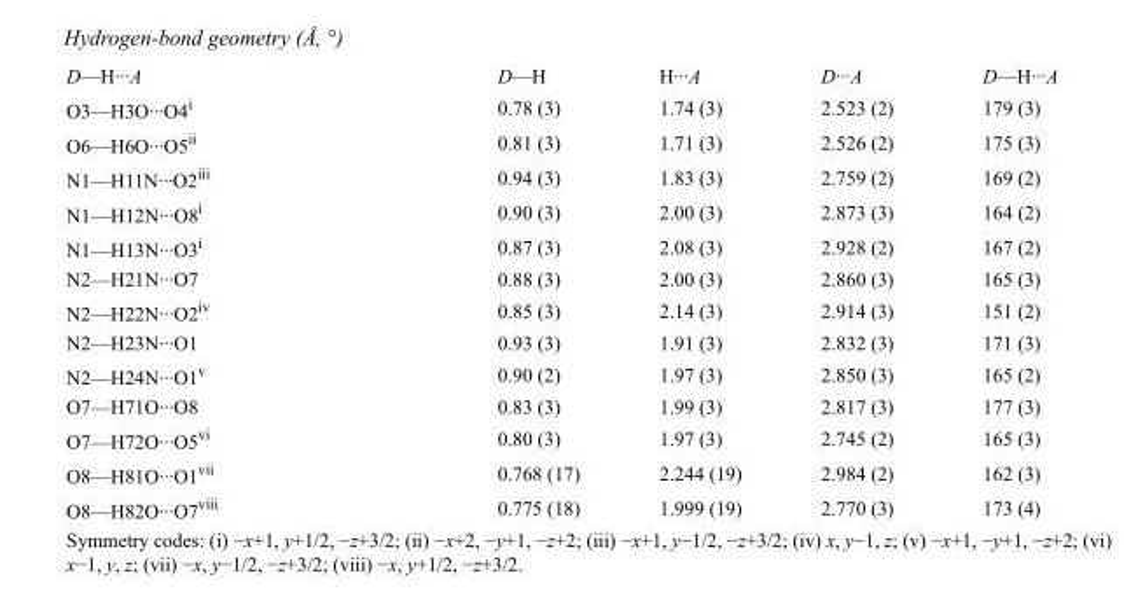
<table><tbody><tr><td>D—H···A</td><td>D—H</td><td>H···A</td><td>D···A</td><td>D—H···A</td></tr><tr><td>O3—H3O···O4<sup>i</sup></td><td>0.78 (3)</td><td>1.74 (3)</td><td>2.523 (2)</td><td>179 (3)</td></tr><tr><td>O6—H6O···O5<sup>ii</sup></td><td>0.81 (3)</td><td>1.71 (3)</td><td>2.526 (2)</td><td>175 (3)</td></tr><tr><td>N1—H11N···O2<sup>iii</sup></td><td>0.94 (3)</td><td>1.83 (3)</td><td>2.759 (2)</td><td>169 (2)</td></tr><tr><td>N1—H12N···O8<sup>i</sup></td><td>0.90 (3)</td><td>2.00 (3)</td><td>2.873 (3)</td><td>164 (2)</td></tr><tr><td>N1—H13N···O3<sup>i</sup></td><td>0.87 (3)</td><td>2.08 (3)</td><td>2.928 (2)</td><td>167 (2)</td></tr><tr><td>N2—H21N···O7</td><td>0.88 (3)</td><td>2.00 (3)</td><td>2.860 (3)</td><td>165 (3)</td></tr><tr><td>N2—H22N···O2<sup>iv</sup></td><td>0.85 (3)</td><td>2.14 (3)</td><td>2.914 (3)</td><td>151 (2)</td></tr><tr><td>N2—H23N···O1</td><td>0.93 (3)</td><td>1.91 (3)</td><td>2.832 (3)</td><td>171 (3)</td></tr><tr><td>N2—H24N···O1<sup>v</sup></td><td>0.90 (2)</td><td>1.97 (3)</td><td>2.850 (3)</td><td>165 (2)</td></tr><tr><td>O7—H71O···O8</td><td>0.83 (3)</td><td>1.99 (3)</td><td>2.817 (3)</td><td>177 (3)</td></tr><tr><td>O7—H72O···O5<sup>vi</sup></td><td>0.80 (3)</td><td>1.97 (3)</td><td>2.745 (2)</td><td>165 (3)</td></tr><tr><td>O8—H81O···O1<sup>vii</sup></td><td>0.768 (17)</td><td>2.244 (19)</td><td>2.984 (2)</td><td>162 (3)</td></tr><tr><td>O8—H82O···O7<sup>viii</sup></td><td>0.775 (18)</td><td>1.999 (19)</td><td>2.770 (3)</td><td>173 (4)</td></tr></tbody></table>